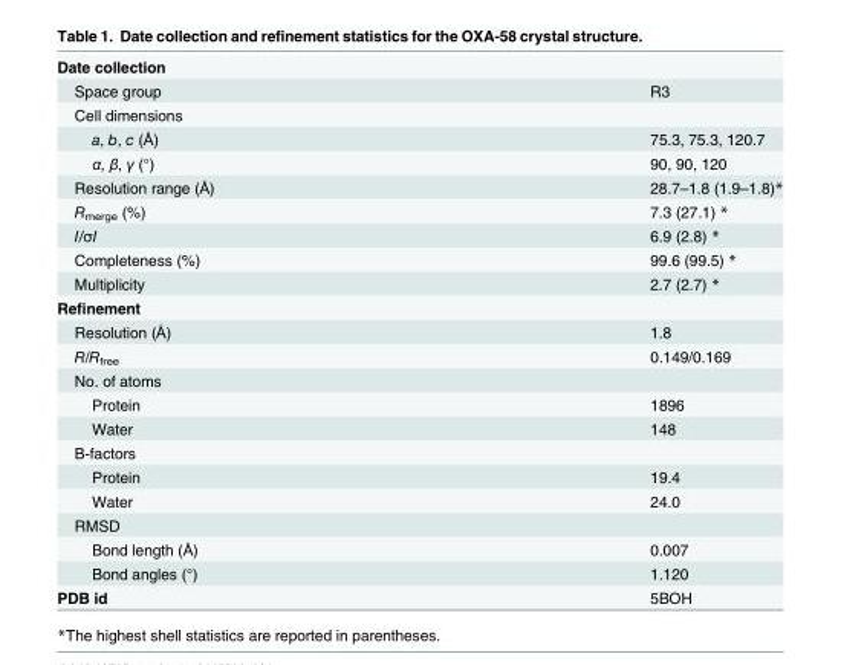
<table><tbody><tr><td colspan="2">Date collection</td></tr><tr><td>Space group</td><td>R3</td></tr><tr><td colspan="2">Cell dimensions</td></tr><tr><td>a, b, c (Å)</td><td>75.3, 75.3, 120.7</td></tr><tr><td>α, β, γ (°)</td><td>90, 90, 120</td></tr><tr><td>Resolution range (Å)</td><td>28.7–1.8 (1.9–1.8)*</td></tr><tr><td>R<sub>merge</sub> (%)</td><td>7.3 (27.1) *</td></tr><tr><td>I/σI</td><td>6.9 (2.8) *</td></tr><tr><td>Completeness (%)</td><td>99.6 (99.5) *</td></tr><tr><td>Multiplicity</td><td>2.7 (2.7) *</td></tr><tr><td colspan="2">Refinement</td></tr><tr><td>Resolution (Å)</td><td>1.8</td></tr><tr><td>R/R<sub>free</sub></td><td>0.149/0.169</td></tr><tr><td colspan="2">No. of atoms</td></tr><tr><td>Protein</td><td>1896</td></tr><tr><td>Water</td><td>148</td></tr><tr><td colspan="2">B-factors</td></tr><tr><td>Protein</td><td>19.4</td></tr><tr><td>Water</td><td>24.0</td></tr><tr><td colspan="2">RMSD</td></tr><tr><td>Bond length (Å)</td><td>0.007</td></tr><tr><td>Bond angles (°)</td><td>1.120</td></tr><tr><td>PDB id</td><td>5BOH</td></tr></tbody></table>